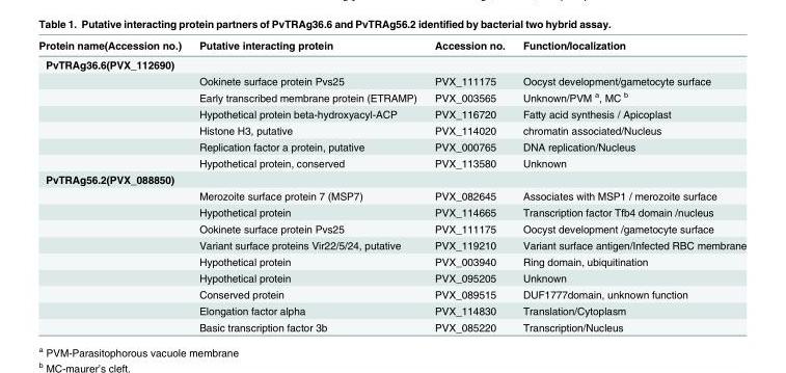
<table><thead><tr><td>Protein name(Accession no.)</td><td>Putative interacting protein</td><td>Accession no.</td><td>Function/localization</td></tr></thead><tbody><tr><td colspan="4">PvTRAg36.6(PVX_112690)</td></tr><tr><td></td><td>Ookinete surface protein Pvs25</td><td>PVX_111175</td><td>Oocyst development/gametocyte surface</td></tr><tr><td></td><td>Early transcribed membrane protein (ETRAMP)</td><td>PVX_003565</td><td>Unknown/PVM <sup>a</sup>, MC <sup>b</sup></td></tr><tr><td></td><td>Hypothetical protein beta-hydroxyacyl-ACP</td><td>PVX_116720</td><td>Fatty acid synthesis / Apicoplast</td></tr><tr><td></td><td>Histone H3, putative</td><td>PVX_114020</td><td>chromatin associated/Nucleus</td></tr><tr><td></td><td>Replication factor a protein, putative</td><td>PVX_000765</td><td>DNA replication/Nucleus</td></tr><tr><td></td><td>Hypothetical protein, conserved</td><td>PVX_113580</td><td>Unknown</td></tr><tr><td colspan="4">PvTRAg56.2(PVX_088850)</td></tr><tr><td></td><td>Merozoite surface protein 7 (MSP7)</td><td>PVX_082645</td><td>Associates with MSP1 / merozoite surface</td></tr><tr><td></td><td>Hypothetical protein</td><td>PVX_114665</td><td>Transcription factor Tfb4 domain /nucleus</td></tr><tr><td></td><td>Ookinete surface protein Pvs25</td><td>PVX_111175</td><td>Oocyst development /gametocyte surface</td></tr><tr><td></td><td>Variant surface proteins Vir22/5/24, putative</td><td>PVX_119210</td><td>Variant surface antigen/Infected RBC membrane</td></tr><tr><td></td><td>Hypothetical protein</td><td>PVX_003940</td><td>Ring domain, ubiquitination</td></tr><tr><td></td><td>Hypothetical protein</td><td>PVX_095205</td><td>Unknown</td></tr><tr><td></td><td>Conserved protein</td><td>PVX_089515</td><td>DUF1777domain, unknown function</td></tr><tr><td></td><td>Elongation factor alpha</td><td>PVX_114830</td><td>Translation/Cytoplasm</td></tr><tr><td></td><td>Basic transcription factor 3b</td><td>PVX_085220</td><td>Transcription/Nucleus</td></tr></tbody></table>